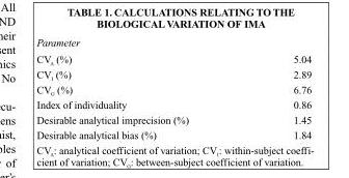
<table><thead><tr><td colspan="2">Parameter</td></tr><tr><td>CV<sub>A</sub> (%)</td><td>5.04</td></tr></thead><tbody><tr><td>CV<sub>I</sub> (%)</td><td>2.89</td></tr><tr><td>CV<sub>G</sub> (%)</td><td>6.76</td></tr><tr><td>Index of individuality</td><td>0.86</td></tr><tr><td>Desirable analytical imprecision (%)</td><td>1.45</td></tr><tr><td>Desirable analytical bias (%)</td><td>1.84</td></tr></tbody></table>